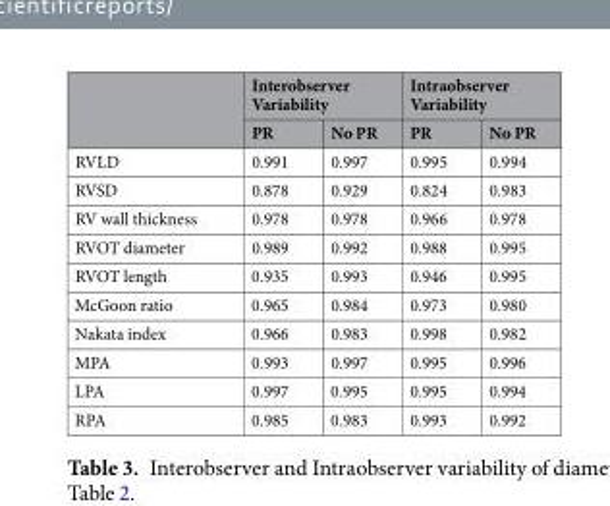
<table><thead><tr><td rowspan="2"></td><td colspan="2">Interobserver Variability</td><td colspan="2">Intraobserver Variability</td></tr><tr><td>PR</td><td>No PR</td><td>PR</td><td>No PR</td></tr></thead><tbody><tr><td>RVLD</td><td>0.991</td><td>0.997</td><td>0.995</td><td>0.994</td></tr><tr><td>RVSD</td><td>0.878</td><td>0.929</td><td>0.824</td><td>0.983</td></tr><tr><td>RV wall thickness</td><td>0.978</td><td>0.978</td><td>0.966</td><td>0.978</td></tr><tr><td>RVOT diameter</td><td>0.989</td><td>0.992</td><td>0.988</td><td>0.995</td></tr><tr><td>RVOT length</td><td>0.935</td><td>0.993</td><td>0.946</td><td>0.995</td></tr><tr><td>McGoon ratio</td><td>0.965</td><td>0.984</td><td>0.973</td><td>0.980</td></tr><tr><td>Nakata index</td><td>0.966</td><td>0.983</td><td>0.998</td><td>0.982</td></tr><tr><td>MPA</td><td>0.993</td><td>0.997</td><td>0.995</td><td>0.996</td></tr><tr><td>LPA</td><td>0.997</td><td>0.995</td><td>0.995</td><td>0.994</td></tr><tr><td>RPA</td><td>0.985</td><td>0.983</td><td>0.993</td><td>0.992</td></tr></tbody></table>